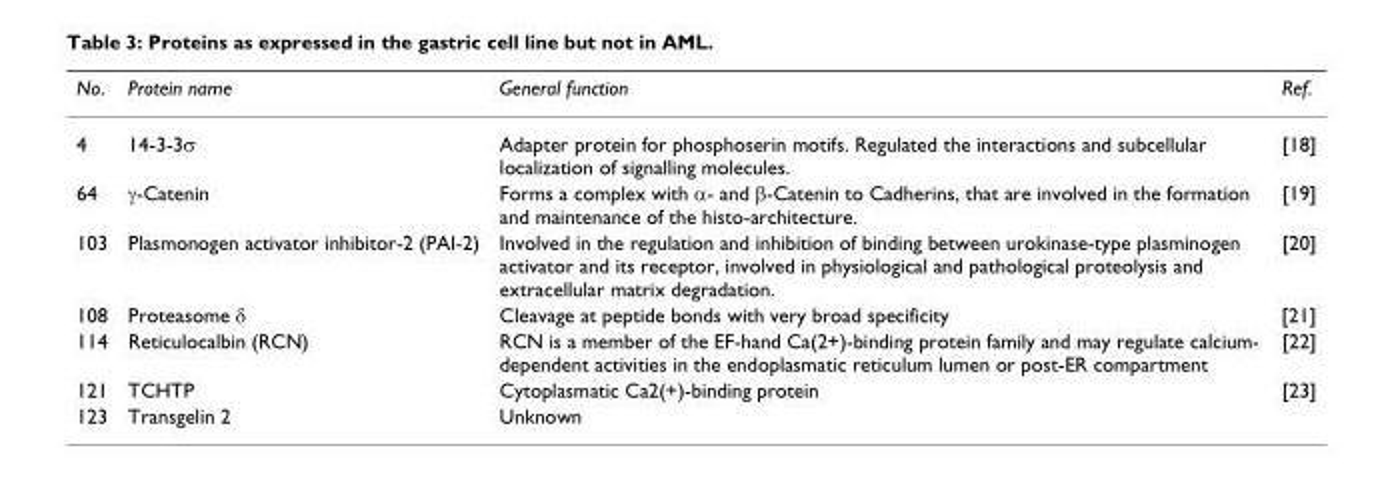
<table><thead><tr><td>No.</td><td>Protein name</td><td>General function</td><td>Ref.</td></tr></thead><tbody><tr><td>4</td><td>14-3-3σ</td><td>Adapter protein for phosphoserin motifs. Regulated the interactions and subcellular localization of signalling molecules.</td><td>[18]</td></tr><tr><td>64</td><td>γ-Catenin</td><td>Forms a complex with α- and β-Catenin to Cadherins, that are involved in the formation and maintenance of the histo-architecture.</td><td>[19]</td></tr><tr><td>103</td><td>Plasmonogen activator inhibitor-2 (PAI-2)</td><td>Involved in the regulation and inhibition of binding between urokinase-type plasminogen activator and its receptor, involved in physiological and pathological proteolysis and extracellular matrix degradation.</td><td>[20]</td></tr><tr><td>108</td><td>Proteasome δ</td><td>Cleavage at peptide bonds with very broad specificity</td><td>[21]</td></tr><tr><td>114</td><td>Reticulocalbin (RCN)</td><td>RCN is a member of the EF-hand Ca(2+)-binding protein family and may regulate calcium- dependent activities in the endoplasmatic reticulum lumen or post-ER compartment</td><td>[22]</td></tr><tr><td>121</td><td>TCHTP</td><td>Cytoplasmatic Ca2(+)-binding protein</td><td>[23]</td></tr><tr><td>123</td><td>Transgelin 2</td><td>Unknown</td><td></td></tr></tbody></table>